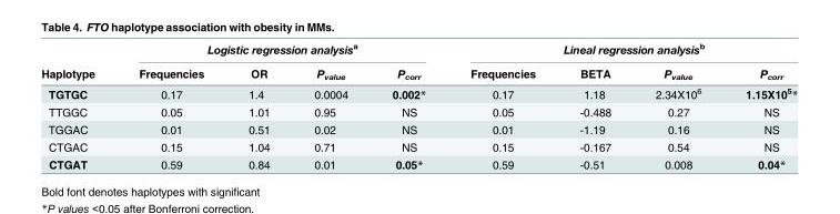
<table><thead><tr><td rowspan="2">Haplotype</td><td colspan="4">Logistic regression analysis<sup>a</sup></td><td colspan="4">Lineal regression analysis<sup>b</sup></td></tr><tr><td>Frequencies</td><td>OR</td><td>P<sub>value</sub></td><td>P<sub>corr</sub></td><td>Frequencies</td><td>BETA</td><td>P<sub>value</sub></td><td>P<sub>corr</sub></td></tr></thead><tbody><tr><td>TGTGC</td><td>0.17</td><td>1.4</td><td>0.0004</td><td>0.002*</td><td>0.17</td><td>1.18</td><td>2.34X10<sup>6</sup></td><td>1.15X10<sup>5</sup>*</td></tr><tr><td>TTGGC</td><td>0.05</td><td>1.01</td><td>0.95</td><td>NS</td><td>0.05</td><td>-0.488</td><td>0.27</td><td>NS</td></tr><tr><td>TGGAC</td><td>0.01</td><td>0.51</td><td>0.02</td><td>NS</td><td>0.01</td><td>-1.19</td><td>0.16</td><td>NS</td></tr><tr><td>CTGAC</td><td>0.15</td><td>1.04</td><td>0.71</td><td>NS</td><td>0.15</td><td>-0.167</td><td>0.54</td><td>NS</td></tr><tr><td>CTGAT</td><td>0.59</td><td>0.84</td><td>0.01</td><td>0.05*</td><td>0.59</td><td>-0.51</td><td>0.008</td><td>0.04*</td></tr></tbody></table>